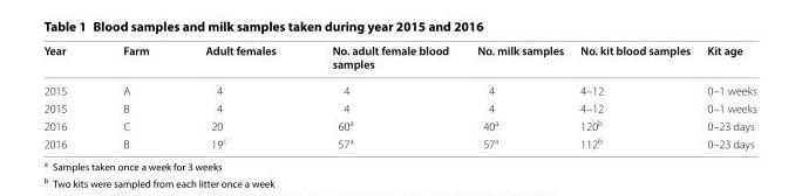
<table><thead><tr><td>Year</td><td>Farm</td><td>Adult females</td><td>No. adult female blood samples</td><td>No. milk samples</td><td>No. kit blood samples</td><td>Kit age</td></tr></thead><tbody><tr><td>2015</td><td>A</td><td>4</td><td>4</td><td>4</td><td>4–12</td><td>0–1 weeks</td></tr><tr><td>2015</td><td>B</td><td>4</td><td>4</td><td>4</td><td>4–12</td><td>0–1 weeks</td></tr><tr><td>2016</td><td>C</td><td>20</td><td>60<sup>a</sup></td><td>40<sup>a</sup></td><td>120<sup>b</sup></td><td>0–23 days</td></tr><tr><td>2016</td><td>B</td><td>19<sup>c</sup></td><td>57<sup>a</sup></td><td>57<sup>a</sup></td><td>112<sup>b</sup></td><td>0–23 days</td></tr></tbody></table>